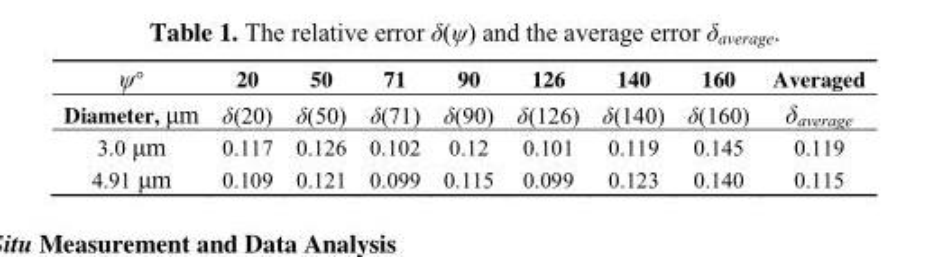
<table><thead><tr><td rowspan="2">ψ° Diameter, μm</td><td rowspan="2">20 δ(20)</td><td rowspan="2">50 δ(50)</td><td rowspan="2">71 δ(71)</td><td rowspan="2">90 δ(90)</td><td rowspan="2">126 δ(126)</td><td rowspan="2">140 δ(140)</td><td rowspan="2">160 δ(160)</td><td rowspan="2">Averaged δaverage</td></tr><tr></tr></thead><tbody><tr><td>3.0 μm</td><td>0.117</td><td>0.126</td><td>0.102</td><td>0.12</td><td>0.101</td><td>0.119</td><td>0.145</td><td>0.119</td></tr><tr><td>4.91 μm</td><td>0.109</td><td>0.121</td><td>0.099</td><td>0.115</td><td>0.099</td><td>0.123</td><td>0.140</td><td>0.115</td></tr></tbody></table>